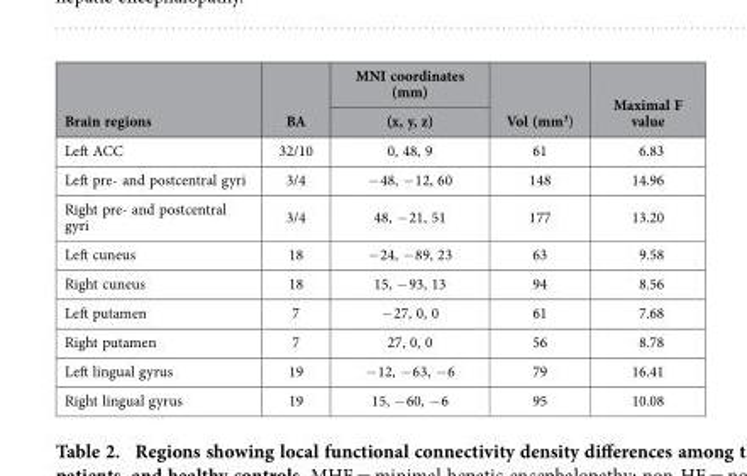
<table><thead><tr><td rowspan="2">Brain regions</td><td rowspan="2">BA</td><td rowspan="2">MNI coordinates (mm) (x, y, z)</td><td rowspan="2">Vol (mm<sup>3</sup>)</td><td rowspan="2">Maximal F value</td></tr><tr></tr></thead><tbody><tr><td>Left ACC</td><td>32/10</td><td>0, 48, 9</td><td>61</td><td>6.83</td></tr><tr><td>Left pre- and postcentral gyri</td><td>3/4</td><td>− 48, − 12, 60</td><td>148</td><td>14.96</td></tr><tr><td>Right pre- and postcentral gyri</td><td>3/4</td><td>48, − 21, 51</td><td>177</td><td>13.20</td></tr><tr><td>Left cuneus</td><td>18</td><td>− 24, − 89, 23</td><td>63</td><td>9.58</td></tr><tr><td>Right cuneus</td><td>18</td><td>15, − 93, 13</td><td>94</td><td>8.56</td></tr><tr><td>Left putamen</td><td>7</td><td>− 27, 0, 0</td><td>61</td><td>7.68</td></tr><tr><td>Right putamen</td><td>7</td><td>27, 0, 0</td><td>56</td><td>8.78</td></tr><tr><td>Left lingual gyrus</td><td>19</td><td>− 12, − 63, − 6</td><td>79</td><td>16.41</td></tr><tr><td>Right lingual gyrus</td><td>19</td><td>15, − 60, − 6</td><td>95</td><td>10.08</td></tr></tbody></table>